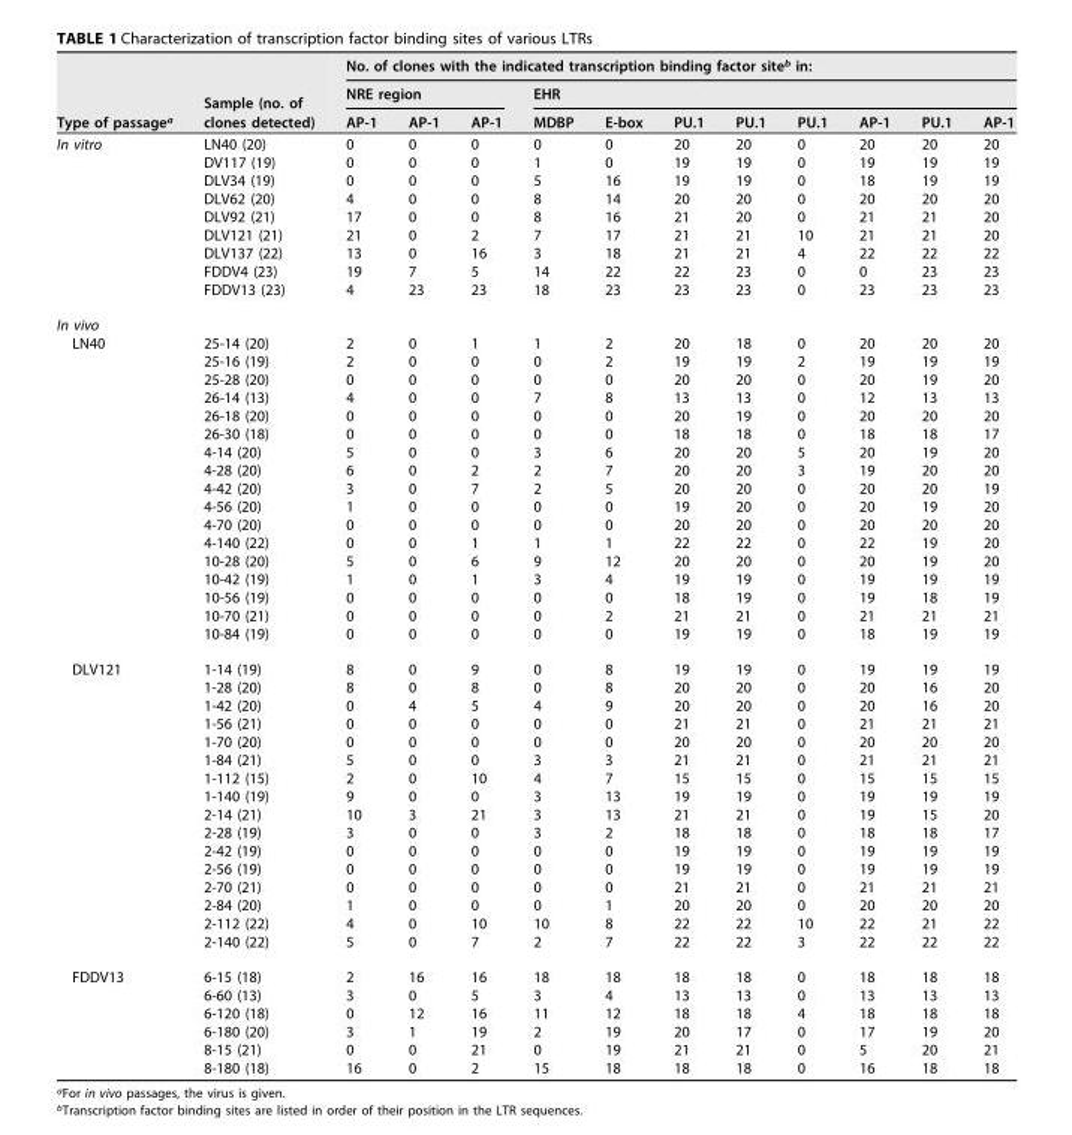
<table><thead><tr><td rowspan="3">Type of passage<sup>a</sup></td><td rowspan="3">Sample (no. of clones detected)</td><td colspan="11">No. of clones with the indicated transcription binding factor site<sup>b</sup> in:</td></tr><tr><td colspan="3">NRE region</td><td colspan="8">EHR</td></tr><tr><td>AP-1</td><td>AP-1</td><td>AP-1</td><td>MDBP</td><td>E-box</td><td>PU.1</td><td>PU.1</td><td>PU.1</td><td>AP-1</td><td>PU.1</td><td>AP-1</td></tr></thead><tbody><tr><td rowspan="9">In vitro</td><td>LN40 (20)</td><td>0</td><td>0</td><td>0</td><td>0</td><td>0</td><td>20</td><td>20</td><td>0</td><td>20</td><td>20</td><td>20</td></tr><tr><td>DV117 (19)</td><td>0</td><td>0</td><td>0</td><td>1</td><td>0</td><td>19</td><td>19</td><td>0</td><td>19</td><td>19</td><td>19</td></tr><tr><td>DLV34 (19)</td><td>0</td><td>0</td><td>0</td><td>5</td><td>16</td><td>19</td><td>19</td><td>0</td><td>18</td><td>19</td><td>19</td></tr><tr><td>DLV62 (20)</td><td>4</td><td>0</td><td>0</td><td>8</td><td>14</td><td>20</td><td>20</td><td>0</td><td>20</td><td>20</td><td>20</td></tr><tr><td>DLV92 (21)</td><td>17</td><td>0</td><td>0</td><td>8</td><td>16</td><td>21</td><td>20</td><td>0</td><td>21</td><td>21</td><td>20</td></tr><tr><td>DLV121 (21)</td><td>21</td><td>0</td><td>2</td><td>7</td><td>17</td><td>21</td><td>21</td><td>10</td><td>21</td><td>21</td><td>20</td></tr><tr><td>DLV137 (22)</td><td>13</td><td>0</td><td>16</td><td>3</td><td>18</td><td>21</td><td>21</td><td>4</td><td>22</td><td>22</td><td>22</td></tr><tr><td>FDDV4 (23)</td><td>19</td><td>7</td><td>5</td><td>14</td><td>22</td><td>22</td><td>23</td><td>0</td><td>0</td><td>23</td><td>23</td></tr><tr><td>FDDV13 (23)</td><td>4</td><td>23</td><td>23</td><td>18</td><td>23</td><td>23</td><td>23</td><td>0</td><td>23</td><td>23</td><td>23</td></tr><tr><td colspan="13">In vivo</td></tr><tr><td rowspan="17">LN40</td><td>25-14 (20)</td><td>2</td><td>0</td><td>1</td><td>1</td><td>2</td><td>20</td><td>18</td><td>0</td><td>20</td><td>20</td><td>20</td></tr><tr><td>25-16 (19)</td><td>2</td><td>0</td><td>0</td><td>0</td><td>2</td><td>19</td><td>19</td><td>2</td><td>19</td><td>19</td><td>19</td></tr><tr><td>25-28 (20)</td><td>0</td><td>0</td><td>0</td><td>0</td><td>0</td><td>20</td><td>20</td><td>0</td><td>20</td><td>19</td><td>20</td></tr><tr><td>26-14 (13)</td><td>4</td><td>0</td><td>0</td><td>7</td><td>8</td><td>13</td><td>13</td><td>0</td><td>12</td><td>13</td><td>13</td></tr><tr><td>26-18 (20)</td><td>0</td><td>0</td><td>0</td><td>0</td><td>0</td><td>20</td><td>19</td><td>0</td><td>20</td><td>20</td><td>20</td></tr><tr><td>26-30 (18)</td><td>0</td><td>0</td><td>0</td><td>0</td><td>0</td><td>18</td><td>18</td><td>0</td><td>18</td><td>18</td><td>17</td></tr><tr><td>4-14 (20)</td><td>5</td><td>0</td><td>0</td><td>3</td><td>6</td><td>20</td><td>20</td><td>5</td><td>20</td><td>19</td><td>20</td></tr><tr><td>4-28 (20)</td><td>6</td><td>0</td><td>2</td><td>2</td><td>7</td><td>20</td><td>20</td><td>3</td><td>19</td><td>20</td><td>20</td></tr><tr><td>4-42 (20)</td><td>3</td><td>0</td><td>7</td><td>2</td><td>5</td><td>20</td><td>20</td><td>0</td><td>20</td><td>20</td><td>19</td></tr><tr><td>4-56 (20)</td><td>1</td><td>0</td><td>0</td><td>0</td><td>0</td><td>19</td><td>20</td><td>0</td><td>20</td><td>19</td><td>20</td></tr><tr><td>4-70 (20)</td><td>0</td><td>0</td><td>0</td><td>0</td><td>0</td><td>20</td><td>20</td><td>0</td><td>20</td><td>20</td><td>20</td></tr><tr><td>4-140 (22)</td><td>0</td><td>0</td><td>1</td><td>1</td><td>1</td><td>22</td><td>22</td><td>0</td><td>22</td><td>19</td><td>20</td></tr><tr><td>10-28 (20)</td><td>5</td><td>0</td><td>6</td><td>9</td><td>12</td><td>20</td><td>20</td><td>0</td><td>20</td><td>19</td><td>20</td></tr><tr><td>10-42 (19)</td><td>1</td><td>0</td><td>1</td><td>3</td><td>4</td><td>19</td><td>19</td><td>0</td><td>19</td><td>19</td><td>19</td></tr><tr><td>10-56 (19)</td><td>0</td><td>0</td><td>0</td><td>0</td><td>0</td><td>18</td><td>19</td><td>0</td><td>19</td><td>18</td><td>19</td></tr><tr><td>10-70 (21)</td><td>0</td><td>0</td><td>0</td><td>0</td><td>2</td><td>21</td><td>21</td><td>0</td><td>21</td><td>21</td><td>21</td></tr><tr><td>10-84 (19)</td><td>0</td><td>0</td><td>0</td><td>0</td><td>0</td><td>19</td><td>19</td><td>0</td><td>18</td><td>19</td><td>19</td></tr><tr><td rowspan="16">DLV121</td><td>1-14 (19)</td><td>8</td><td>0</td><td>9</td><td>0</td><td>8</td><td>19</td><td>19</td><td>0</td><td>19</td><td>19</td><td>19</td></tr><tr><td>1-28 (20)</td><td>8</td><td>0</td><td>8</td><td>0</td><td>8</td><td>20</td><td>20</td><td>0</td><td>20</td><td>16</td><td>20</td></tr><tr><td>1-42 (20)</td><td>0</td><td>4</td><td>5</td><td>4</td><td>9</td><td>20</td><td>20</td><td>0</td><td>20</td><td>16</td><td>20</td></tr><tr><td>1-56 (21)</td><td>0</td><td>0</td><td>0</td><td>0</td><td>0</td><td>21</td><td>21</td><td>0</td><td>21</td><td>21</td><td>21</td></tr><tr><td>1-70 (20)</td><td>0</td><td>0</td><td>0</td><td>0</td><td>0</td><td>20</td><td>20</td><td>0</td><td>20</td><td>20</td><td>20</td></tr><tr><td>1-84 (21)</td><td>5</td><td>0</td><td>0</td><td>3</td><td>3</td><td>21</td><td>21</td><td>0</td><td>21</td><td>21</td><td>21</td></tr><tr><td>1-112 (15)</td><td>2</td><td>0</td><td>10</td><td>4</td><td>7</td><td>15</td><td>15</td><td>0</td><td>15</td><td>15</td><td>15</td></tr><tr><td>1-140 (19)</td><td>9</td><td>0</td><td>0</td><td>3</td><td>13</td><td>19</td><td>19</td><td>0</td><td>19</td><td>19</td><td>19</td></tr><tr><td>2-14 (21)</td><td>10</td><td>3</td><td>21</td><td>3</td><td>13</td><td>21</td><td>21</td><td>0</td><td>19</td><td>15</td><td>20</td></tr><tr><td>2-28 (19)</td><td>3</td><td>0</td><td>0</td><td>3</td><td>2</td><td>18</td><td>18</td><td>0</td><td>18</td><td>18</td><td>17</td></tr><tr><td>2-42 (19)</td><td>0</td><td>0</td><td>0</td><td>0</td><td>0</td><td>19</td><td>19</td><td>0</td><td>19</td><td>19</td><td>19</td></tr><tr><td>2-56 (19)</td><td>0</td><td>0</td><td>0</td><td>0</td><td>0</td><td>19</td><td>19</td><td>0</td><td>19</td><td>19</td><td>19</td></tr><tr><td>2-70 (21)</td><td>0</td><td>0</td><td>0</td><td>0</td><td>0</td><td>21</td><td>21</td><td>0</td><td>21</td><td>21</td><td>21</td></tr><tr><td>2-84 (20)</td><td>1</td><td>0</td><td>0</td><td>0</td><td>1</td><td>20</td><td>20</td><td>0</td><td>20</td><td>20</td><td>20</td></tr><tr><td>2-112 (22)</td><td>4</td><td>0</td><td>10</td><td>10</td><td>8</td><td>22</td><td>22</td><td>10</td><td>22</td><td>21</td><td>22</td></tr><tr><td>2-140 (22)</td><td>5</td><td>0</td><td>7</td><td>2</td><td>7</td><td>22</td><td>22</td><td>3</td><td>22</td><td>22</td><td>22</td></tr><tr><td rowspan="6">FDDV13</td><td>6-15 (18)</td><td>2</td><td>16</td><td>16</td><td>18</td><td>18</td><td>18</td><td>18</td><td>0</td><td>18</td><td>18</td><td>18</td></tr><tr><td>6-60 (13)</td><td>3</td><td>0</td><td>5</td><td>3</td><td>4</td><td>13</td><td>13</td><td>0</td><td>13</td><td>13</td><td>13</td></tr><tr><td>6-120 (18)</td><td>0</td><td>12</td><td>16</td><td>11</td><td>12</td><td>18</td><td>18</td><td>4</td><td>18</td><td>18</td><td>18</td></tr><tr><td>6-180 (20)</td><td>3</td><td>1</td><td>19</td><td>2</td><td>19</td><td>20</td><td>17</td><td>0</td><td>17</td><td>19</td><td>20</td></tr><tr><td>8-15 (21)</td><td>0</td><td>0</td><td>21</td><td>0</td><td>19</td><td>21</td><td>21</td><td>0</td><td>5</td><td>20</td><td>21</td></tr><tr><td>8-180 (18)</td><td>16</td><td>0</td><td>2</td><td>15</td><td>18</td><td>18</td><td>18</td><td>0</td><td>16</td><td>18</td><td>18</td></tr></tbody></table>